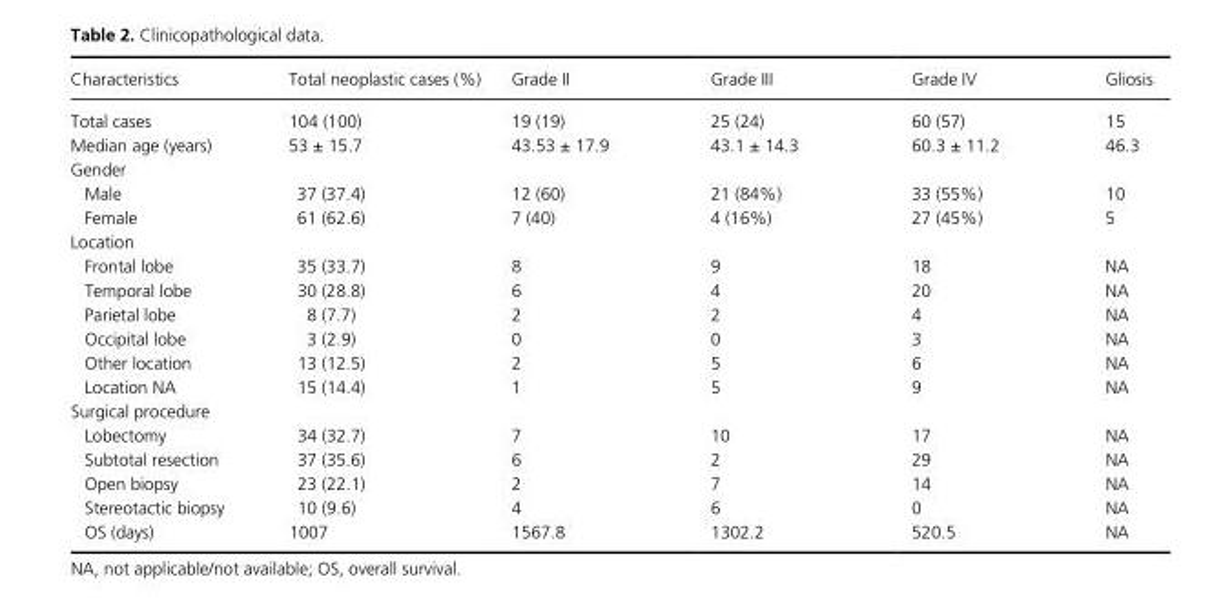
<table><thead><tr><td>Characteristics</td><td>Total neoplastic cases (%)</td><td>Grade II</td><td>Grade III</td><td>Grade IV</td><td>Gliosis</td></tr></thead><tbody><tr><td>Total cases</td><td>104 (100)</td><td>19 (19)</td><td>25 (24)</td><td>60 (57)</td><td>15</td></tr><tr><td>Median age (years)</td><td>53 ± 15.7</td><td>43.53 ± 17.9</td><td>43.1 ± 14.3</td><td>60.3 ± 11.2</td><td>46.3</td></tr><tr><td colspan="6">Gender</td></tr><tr><td>Male</td><td>37 (37.4)</td><td>12 (60)</td><td>21 (84%)</td><td>33 (55%)</td><td>10</td></tr><tr><td>Female</td><td>61 (62.6)</td><td>7 (40)</td><td>4 (16%)</td><td>27 (45%)</td><td>5</td></tr><tr><td colspan="6">Location</td></tr><tr><td>Frontal lobe</td><td>35 (33.7)</td><td>8</td><td>9</td><td>18</td><td>NA</td></tr><tr><td>Temporal lobe</td><td>30 (28.8)</td><td>6</td><td>4</td><td>20</td><td>NA</td></tr><tr><td>Parietal lobe</td><td>8 (7.7)</td><td>2</td><td>2</td><td>4</td><td>NA</td></tr><tr><td>Occipital lobe</td><td>3 (2.9)</td><td>0</td><td>0</td><td>3</td><td>NA</td></tr><tr><td>Other location</td><td>13 (12.5)</td><td>2</td><td>5</td><td>6</td><td>NA</td></tr><tr><td>Location NA</td><td>15 (14.4)</td><td>1</td><td>5</td><td>9</td><td>NA</td></tr><tr><td colspan="6">Surgical procedure</td></tr><tr><td>Lobectomy</td><td>34 (32.7)</td><td>7</td><td>10</td><td>17</td><td>NA</td></tr><tr><td>Subtotal resection</td><td>37 (35.6)</td><td>6</td><td>2</td><td>29</td><td>NA</td></tr><tr><td>Open biopsy</td><td>23 (22.1)</td><td>2</td><td>7</td><td>14</td><td>NA</td></tr><tr><td>Stereotactic biopsy</td><td>10 (9.6)</td><td>4</td><td>6</td><td>0</td><td>NA</td></tr><tr><td>OS (days)</td><td>1007</td><td>1567.8</td><td>1302.2</td><td>520.5</td><td>NA</td></tr></tbody></table>